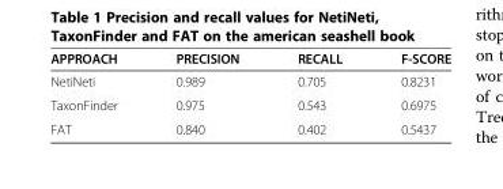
<table><thead><tr><td>APPROACH</td><td>PRECISION</td><td>RECALL</td><td>F-SCORE</td></tr></thead><tbody><tr><td>NetiNeti</td><td>0.989</td><td>0.705</td><td>0.8231</td></tr><tr><td>TaxonFinder</td><td>0.975</td><td>0.543</td><td>0.6975</td></tr><tr><td>FAT</td><td>0.840</td><td>0.402</td><td>0.5437</td></tr></tbody></table>